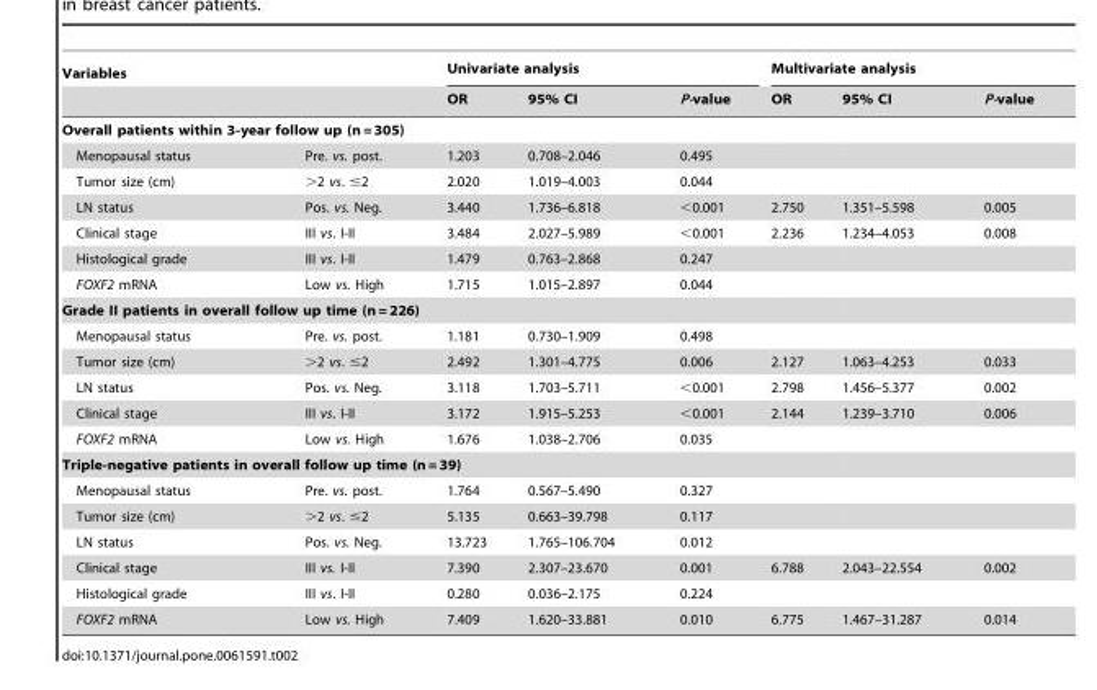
<table><thead><tr><td colspan="2">Variables</td><td colspan="3">Univariate analysis</td><td colspan="3">Multivariate analysis</td></tr><tr><td></td><td></td><td>OR</td><td>95% CI</td><td>P-value</td><td>OR</td><td>95% CI</td><td>P-value</td></tr></thead><tbody><tr><td colspan="8">Overall patients within 3-year follow up (n = 305)</td></tr><tr><td>Menopausal status</td><td>Pre. vs. post.</td><td>1.203</td><td>0.708–2.046</td><td>0.495</td><td></td><td></td><td></td></tr><tr><td>Tumor size (cm)</td><td>&gt;2 vs. ≤2</td><td>2.020</td><td>1.019–4.003</td><td>0.044</td><td></td><td></td><td></td></tr><tr><td>LN status</td><td>Pos. vs. Neg.</td><td>3.440</td><td>1.736–6.818</td><td>&lt;0.001</td><td>2.750</td><td>1.351–5.598</td><td>0.005</td></tr><tr><td>Clinical stage</td><td>III vs. I-II</td><td>3.484</td><td>2.027–5.989</td><td>&lt;0.001</td><td>2.236</td><td>1.234–4.053</td><td>0.008</td></tr><tr><td>Histological grade</td><td>III vs. I-II</td><td>1.479</td><td>0.763–2.868</td><td>0.247</td><td></td><td></td><td></td></tr><tr><td>FOXF2 mRNA</td><td>Low vs. High</td><td>1.715</td><td>1.015–2.897</td><td>0.044</td><td></td><td></td><td></td></tr><tr><td colspan="8">Grade II patients in overall follow up time (n = 226)</td></tr><tr><td>Menopausal status</td><td>Pre. vs. post.</td><td>1.181</td><td>0.730–1.909</td><td>0.498</td><td></td><td></td><td></td></tr><tr><td>Tumor size (cm)</td><td>&gt;2 vs. ≤2</td><td>2.492</td><td>1.301–4.775</td><td>0.006</td><td>2.127</td><td>1.063–4.253</td><td>0.033</td></tr><tr><td>LN status</td><td>Pos. vs. Neg.</td><td>3.118</td><td>1.703–5.711</td><td>&lt;0.001</td><td>2.798</td><td>1.456–5.377</td><td>0.002</td></tr><tr><td>Clinical stage</td><td>III vs. I-II</td><td>3.172</td><td>1.915–5.253</td><td>&lt;0.001</td><td>2.144</td><td>1.239–3.710</td><td>0.006</td></tr><tr><td>FOXF2 mRNA</td><td>Low vs. High</td><td>1.676</td><td>1.038–2.706</td><td>0.035</td><td></td><td></td><td></td></tr><tr><td colspan="8">Triple-negative patients in overall follow up time (n = 39)</td></tr><tr><td>Menopausal status</td><td>Pre. vs. post.</td><td>1.764</td><td>0.567–5.490</td><td>0.327</td><td></td><td></td><td></td></tr><tr><td>Tumor size (cm)</td><td>&gt;2 vs. ≤2</td><td>5.135</td><td>0.663–39.798</td><td>0.117</td><td></td><td></td><td></td></tr><tr><td>LN status</td><td>Pos. vs. Neg.</td><td>13.723</td><td>1.765–106.704</td><td>0.012</td><td></td><td></td><td></td></tr><tr><td>Clinical stage</td><td>III vs. I-II</td><td>7.390</td><td>2.307–23.670</td><td>0.001</td><td>6.788</td><td>2.043–22.554</td><td>0.002</td></tr><tr><td>Histological grade</td><td>III vs. I-II</td><td>0.280</td><td>0.036–2.175</td><td>0.224</td><td></td><td></td><td></td></tr><tr><td>FOXF2 mRNA</td><td>Low vs. High</td><td>7.409</td><td>1.620–33.881</td><td>0.010</td><td>6.775</td><td>1.467–31.287</td><td>0.014</td></tr></tbody></table>